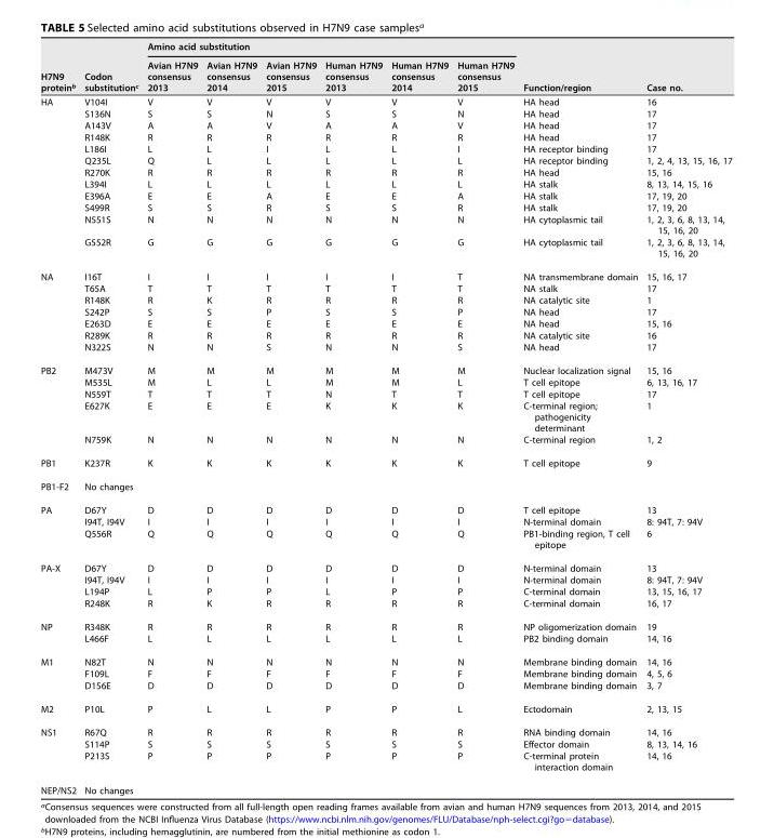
<table><thead><tr><td rowspan="2">H7N9 protein<sup>b</sup></td><td rowspan="2">Codon substitution<sup>c</sup></td><td colspan="6">Amino acid substitution</td><td rowspan="2">Function/region</td><td rowspan="2">Case no.</td></tr><tr><td>Avian H7N9 consensus 2013</td><td>Avian H7N9 consensus 2014</td><td>Avian H7N9 consensus 2015</td><td>Human H7N9 consensus 2013</td><td>Human H7N9 consensus 2014</td><td>Human H7N9 consensus 2015</td></tr></thead><tbody><tr><td rowspan="12">HA</td><td>V104I</td><td>V</td><td>V</td><td>V</td><td>V</td><td>V</td><td>V</td><td>HA head</td><td>16</td></tr><tr><td>S136N</td><td>S</td><td>S</td><td>N</td><td>S</td><td>S</td><td>N</td><td>HA head</td><td>17</td></tr><tr><td>A143V</td><td>A</td><td>A</td><td>V</td><td>A</td><td>A</td><td>V</td><td>HA head</td><td>17</td></tr><tr><td>R148K</td><td>R</td><td>R</td><td>R</td><td>R</td><td>R</td><td>R</td><td>HA head</td><td>17</td></tr><tr><td>L186I</td><td>L</td><td>L</td><td>I</td><td>L</td><td>L</td><td>I</td><td>HA receptor binding</td><td>17</td></tr><tr><td>Q235L</td><td>Q</td><td>L</td><td>L</td><td>L</td><td>L</td><td>L</td><td>HA receptor binding</td><td>1, 2, 4, 13, 15, 16, 17</td></tr><tr><td>R270K</td><td>R</td><td>R</td><td>R</td><td>R</td><td>R</td><td>R</td><td>HA head</td><td>15, 16</td></tr><tr><td>L394I</td><td>L</td><td>L</td><td>L</td><td>L</td><td>L</td><td>L</td><td>HA stalk</td><td>8, 13, 14, 15, 16</td></tr><tr><td>E396A</td><td>E</td><td>E</td><td>A</td><td>E</td><td>E</td><td>A</td><td>HA stalk</td><td>17, 19, 20</td></tr><tr><td>S499R</td><td>S</td><td>S</td><td>R</td><td>S</td><td>S</td><td>R</td><td>HA stalk</td><td>17, 19, 20</td></tr><tr><td>N551S</td><td>N</td><td>N</td><td>N</td><td>N</td><td>N</td><td>N</td><td>HA cytoplasmic tail</td><td>1, 2, 3, 6, 8, 13, 14, 15, 16, 20</td></tr><tr><td>G552R</td><td>G</td><td>G</td><td>G</td><td>G</td><td>G</td><td>G</td><td>HA cytoplasmic tail</td><td>1, 2, 3, 6, 8, 13, 14, 15, 16, 20</td></tr><tr><td rowspan="7">NA</td><td>I16T</td><td>I</td><td>I</td><td>I</td><td>I</td><td>I</td><td>T</td><td>NA transmembrane domain</td><td>15, 16, 17</td></tr><tr><td>T65A</td><td>T</td><td>T</td><td>T</td><td>T</td><td>T</td><td>T</td><td>NA stalk</td><td>17</td></tr><tr><td>R148K</td><td>R</td><td>K</td><td>R</td><td>R</td><td>R</td><td>R</td><td>NA catalytic site</td><td>1</td></tr><tr><td>S242P</td><td>S</td><td>S</td><td>P</td><td>S</td><td>S</td><td>P</td><td>NA head</td><td>17</td></tr><tr><td>E263D</td><td>E</td><td>E</td><td>E</td><td>E</td><td>E</td><td>E</td><td>NA head</td><td>15, 16</td></tr><tr><td>R289K</td><td>R</td><td>R</td><td>R</td><td>R</td><td>R</td><td>R</td><td>NA catalytic site</td><td>16</td></tr><tr><td>N322S</td><td>N</td><td>N</td><td>S</td><td>N</td><td>N</td><td>S</td><td>NA head</td><td>17</td></tr><tr><td rowspan="5">PB2</td><td>M473V</td><td>M</td><td>M</td><td>M</td><td>M</td><td>M</td><td>M</td><td>Nuclear localization signal</td><td>15, 16</td></tr><tr><td>M535L</td><td>M</td><td>L</td><td>L</td><td>M</td><td>M</td><td>L</td><td>T cell epitope</td><td>6, 13, 16, 17</td></tr><tr><td>N559T</td><td>T</td><td>T</td><td>T</td><td>N</td><td>T</td><td>T</td><td>T cell epitope</td><td>17</td></tr><tr><td>E627K</td><td>E</td><td>E</td><td>E</td><td>K</td><td>K</td><td>K</td><td>C-terminal region; pathogenicity determinant</td><td>1</td></tr><tr><td>N759K</td><td>N</td><td>N</td><td>N</td><td>N</td><td>N</td><td>N</td><td>C-terminal region</td><td>1, 2</td></tr><tr><td>PB1</td><td>K237R</td><td>K</td><td>K</td><td>K</td><td>K</td><td>K</td><td>K</td><td>T cell epitope</td><td>9</td></tr><tr><td>PB1-F2</td><td>No changes</td><td></td><td></td><td></td><td></td><td></td><td></td><td></td><td></td></tr><tr><td rowspan="3">PA</td><td>D67Y</td><td>D</td><td>D</td><td>D</td><td>D</td><td>D</td><td>D</td><td>T cell epitope</td><td>13</td></tr><tr><td>I94T, I94V</td><td>I</td><td>I</td><td>I</td><td>I</td><td>I</td><td>I</td><td>N-terminal domain</td><td>8: 94T, 7: 94V</td></tr><tr><td>Q556R</td><td>Q</td><td>Q</td><td>Q</td><td>Q</td><td>Q</td><td>Q</td><td>PB1-binding region, T cell epitope</td><td>6</td></tr><tr><td rowspan="4">PA-X</td><td>D67Y</td><td>D</td><td>D</td><td>D</td><td>D</td><td>D</td><td>D</td><td>N-terminal domain</td><td>13</td></tr><tr><td>I94T, I94V</td><td>I</td><td>I</td><td>I</td><td>I</td><td>I</td><td>I</td><td>N-terminal domain</td><td>8: 94T, 7: 94V</td></tr><tr><td>L194P</td><td>L</td><td>P</td><td>P</td><td>L</td><td>P</td><td>P</td><td>C-terminal domain</td><td>13, 15, 16, 17</td></tr><tr><td>R248K</td><td>R</td><td>K</td><td>R</td><td>R</td><td>R</td><td>R</td><td>C-terminal domain</td><td>16, 17</td></tr><tr><td rowspan="2">NP</td><td>R348K</td><td>R</td><td>R</td><td>R</td><td>R</td><td>R</td><td>R</td><td>NP oligomerization domain</td><td>19</td></tr><tr><td>L466F</td><td>L</td><td>L</td><td>L</td><td>L</td><td>L</td><td>L</td><td>PB2 binding domain</td><td>14, 16</td></tr><tr><td rowspan="3">M1</td><td>N82T</td><td>N</td><td>N</td><td>N</td><td>N</td><td>N</td><td>N</td><td>Membrane binding domain</td><td>14, 16</td></tr><tr><td>F109L</td><td>F</td><td>F</td><td>F</td><td>F</td><td>F</td><td>F</td><td>Membrane binding domain</td><td>4, 5, 6</td></tr><tr><td>D156E</td><td>D</td><td>D</td><td>D</td><td>D</td><td>D</td><td>D</td><td>Membrane binding domain</td><td>3, 7</td></tr><tr><td>M2</td><td>P10L</td><td>P</td><td>L</td><td>L</td><td>P</td><td>P</td><td>L</td><td>Ectodomain</td><td>2, 13, 15</td></tr><tr><td rowspan="3">NS1</td><td>R67Q</td><td>R</td><td>R</td><td>R</td><td>R</td><td>R</td><td>R</td><td>RNA binding domain</td><td>14, 16</td></tr><tr><td>S114P</td><td>S</td><td>S</td><td>S</td><td>S</td><td>S</td><td>S</td><td>Effector domain</td><td>8, 13, 14, 16</td></tr><tr><td>P213S</td><td>P</td><td>P</td><td>P</td><td>P</td><td>P</td><td>P</td><td>C-terminal protein interaction domain</td><td>14, 16</td></tr><tr><td>NEP/NS2</td><td>No changes</td><td></td><td></td><td></td><td></td><td></td><td></td><td></td><td></td></tr></tbody></table>